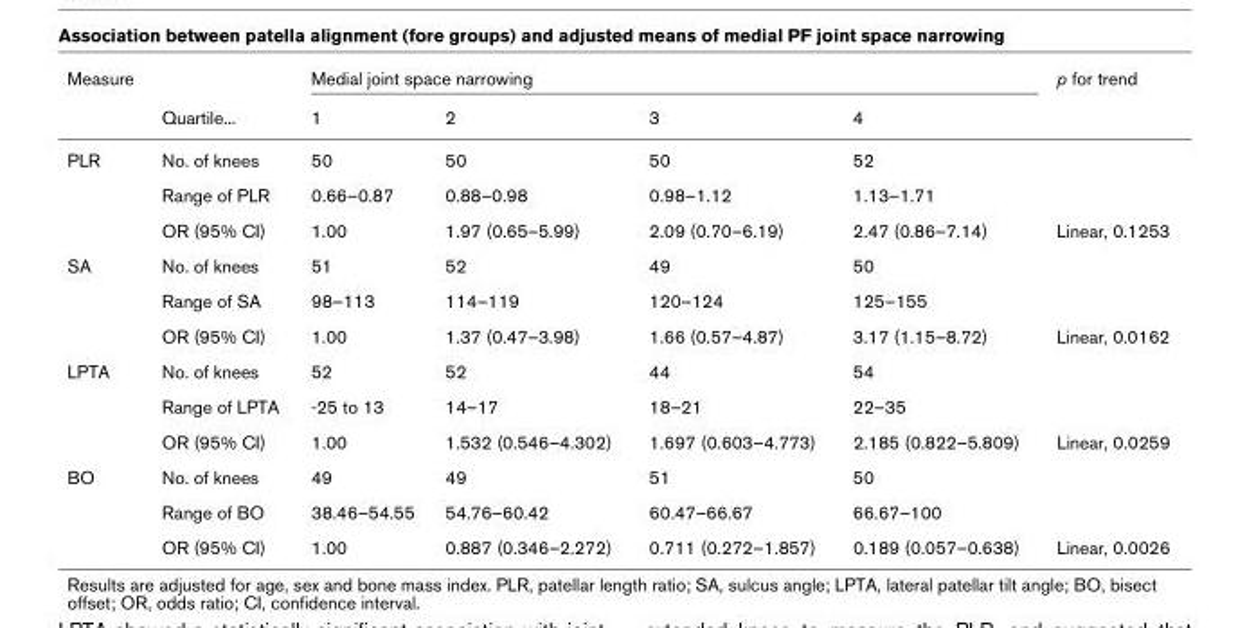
<table><thead><tr><td rowspan="2">Measure</td><td rowspan="2">Quartile...</td><td colspan="4">Medial joint space narrowing</td><td rowspan="2">p for trend</td></tr><tr><td>1</td><td>2</td><td>3</td><td>4</td></tr></thead><tbody><tr><td rowspan="3">PLR</td><td>No. of knees</td><td>50</td><td>50</td><td>50</td><td>52</td><td></td></tr><tr><td>Range of PLR</td><td>0.66–0.87</td><td>0.88–0.98</td><td>0.98–1.12</td><td>1.13–1.71</td><td></td></tr><tr><td>OR (95% CI)</td><td>1.00</td><td>1.97 (0.65–5.99)</td><td>2.09 (0.70–6.19)</td><td>2.47 (0.86–7.14)</td><td>Linear, 0.1253</td></tr><tr><td rowspan="3">SA</td><td>No. of knees</td><td>51</td><td>52</td><td>49</td><td>50</td><td></td></tr><tr><td>Range of SA</td><td>98–113</td><td>114–119</td><td>120–124</td><td>125–155</td><td></td></tr><tr><td>OR (95% CI)</td><td>1.00</td><td>1.37 (0.47–3.98)</td><td>1.66 (0.57–4.87)</td><td>3.17 (1.15–8.72)</td><td>Linear, 0.0162</td></tr><tr><td rowspan="3">LPTA</td><td>No. of knees</td><td>52</td><td>52</td><td>44</td><td>54</td><td></td></tr><tr><td>Range of LPTA</td><td>-25 to 13</td><td>14–17</td><td>18–21</td><td>22–35</td><td></td></tr><tr><td>OR (95% CI)</td><td>1.00</td><td>1.532 (0.546–4.302)</td><td>1.697 (0.603–4.773)</td><td>2.185 (0.822–5.809)</td><td>Linear, 0.0259</td></tr><tr><td rowspan="3">BO</td><td>No. of knees</td><td>49</td><td>49</td><td>51</td><td>50</td><td></td></tr><tr><td>Range of BO</td><td>38.46–54.55</td><td>54.76–60.42</td><td>60.47–66.67</td><td>66.67–100</td><td></td></tr><tr><td>OR (95% CI)</td><td>1.00</td><td>0.887 (0.346–2.272)</td><td>0.711 (0.272–1.857)</td><td>0.189 (0.057–0.638)</td><td>Linear, 0.0026</td></tr></tbody></table>